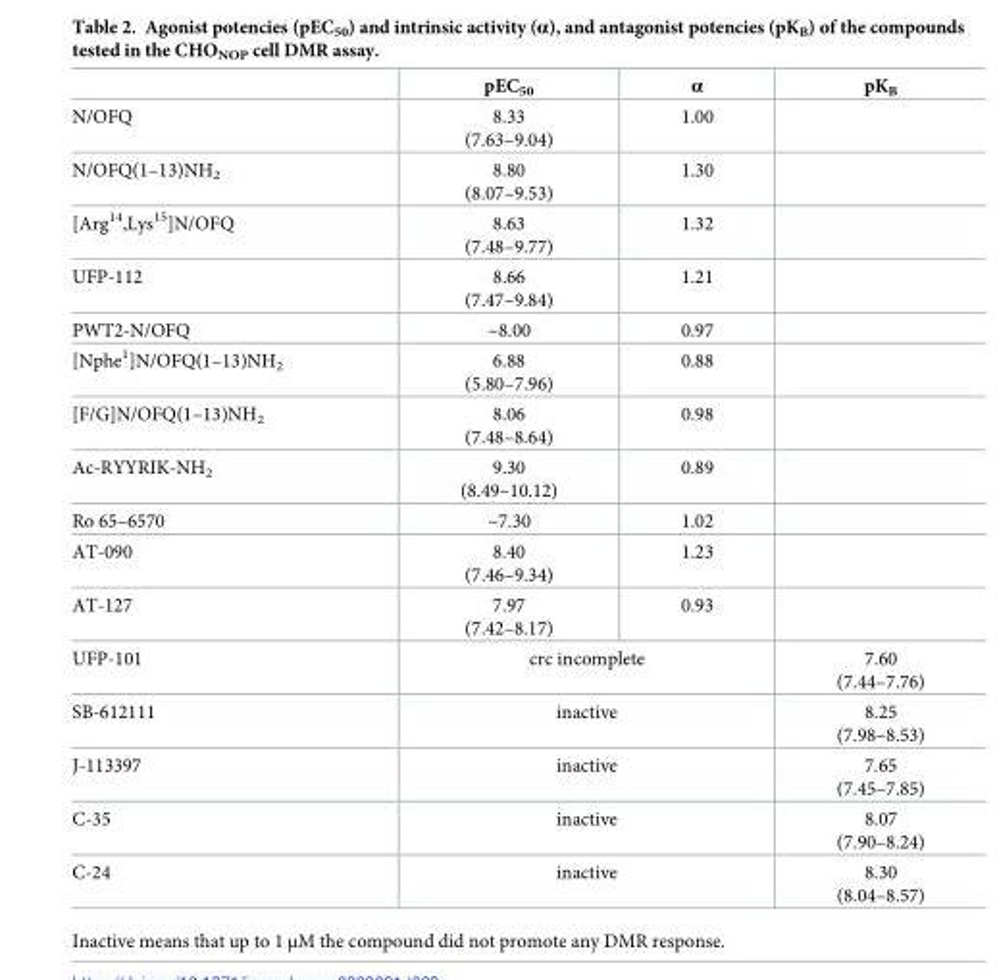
<table><thead><tr><td></td><td>pEC<sub>50</sub></td><td>α</td><td>pK<sub>B</sub></td></tr></thead><tbody><tr><td>N/OFQ</td><td>8.33 (7.63–9.04)</td><td>1.00</td><td></td></tr><tr><td>N/OFQ(1–13)NH<sub>2</sub></td><td>8.80 (8.07–9.53)</td><td>1.30</td><td></td></tr><tr><td>[Arg<sup>14</sup>,Lys<sup>15</sup>]N/OFQ</td><td>8.63 (7.48–9.77)</td><td>1.32</td><td></td></tr><tr><td>UFP-112</td><td>8.66 (7.47–9.84)</td><td>1.21</td><td></td></tr><tr><td>PWT2-N/OFQ</td><td>~8.00</td><td>0.97</td><td></td></tr><tr><td>[Nphe<sup>1</sup>]N/OFQ(1–13)NH<sub>2</sub></td><td>6.88 (5.80–7.96)</td><td>0.88</td><td></td></tr><tr><td>[F/G]N/OFQ(1–13)NH<sub>2</sub></td><td>8.06 (7.48–8.64)</td><td>0.98</td><td></td></tr><tr><td>Ac-RYYRIK-NH<sub>2</sub></td><td>9.30 (8.49–10.12)</td><td>0.89</td><td></td></tr><tr><td>Ro 65–6570</td><td>~7.30</td><td>1.02</td><td></td></tr><tr><td>AT-090</td><td>8.40 (7.46–9.34)</td><td>1.23</td><td></td></tr><tr><td>AT-127</td><td>7.97 (7.42–8.17)</td><td>0.93</td><td></td></tr><tr><td>UFP-101</td><td colspan="2">crc incomplete</td><td>7.60 (7.44–7.76)</td></tr><tr><td>SB-612111</td><td colspan="2">inactive</td><td>8.25 (7.98–8.53)</td></tr><tr><td>J-113397</td><td colspan="2">inactive</td><td>7.65 (7.45–7.85)</td></tr><tr><td>C-35</td><td colspan="2">inactive</td><td>8.07 (7.90–8.24)</td></tr><tr><td>C-24</td><td colspan="2">inactive</td><td>8.30 (8.04–8.57)</td></tr></tbody></table>